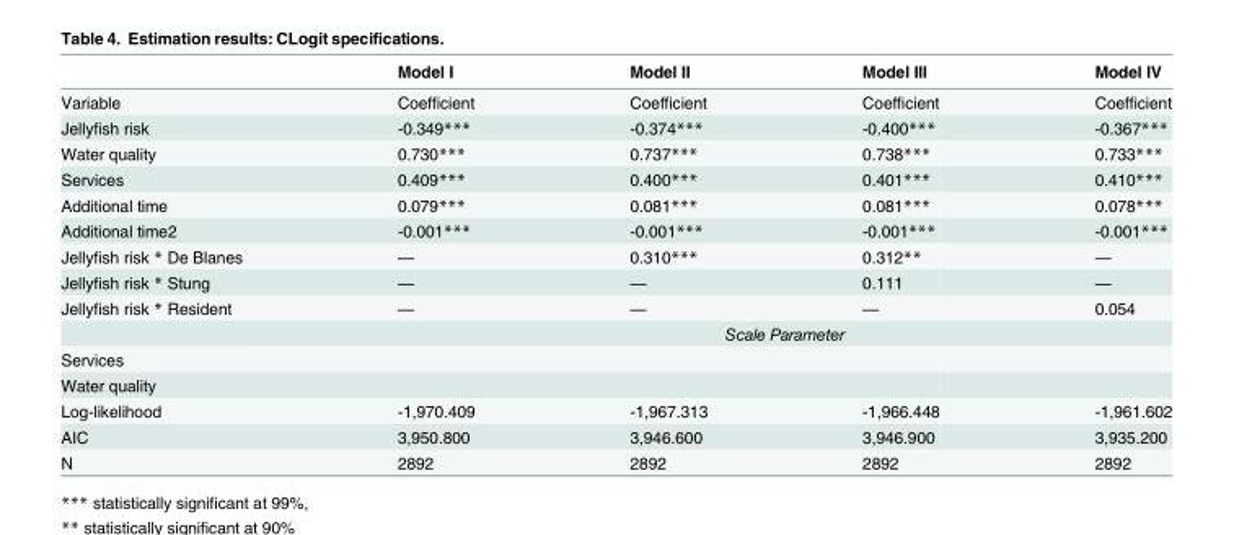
<table><thead><tr><td></td><td>Model I</td><td>Model II</td><td>Model III</td><td>Model IV</td></tr></thead><tbody><tr><td>Variable</td><td>Coefficient</td><td>Coefficient</td><td>Coefficient</td><td>Coefficient</td></tr><tr><td>Jellyfish risk</td><td>-0.349***</td><td>-0.374***</td><td>-0.400***</td><td>-0.367***</td></tr><tr><td>Water quality</td><td>0.730***</td><td>0.737***</td><td>0.738***</td><td>0.733***</td></tr><tr><td>Services</td><td>0.409***</td><td>0.400***</td><td>0.401***</td><td>0.410***</td></tr><tr><td>Additional time</td><td>0.079***</td><td>0.081***</td><td>0.081***</td><td>0.078***</td></tr><tr><td>Additional time2</td><td>-0.001***</td><td>-0.001***</td><td>-0.001***</td><td>-0.001***</td></tr><tr><td>Jellyfish risk * De Blanes</td><td>—</td><td>0.310***</td><td>0.312**</td><td>—</td></tr><tr><td>Jellyfish risk * Stung</td><td>—</td><td>—</td><td>0.111</td><td>—</td></tr><tr><td rowspan="2">Jellyfish risk * Resident</td><td>—</td><td>—</td><td>—</td><td>0.054</td></tr><tr><td colspan="4">Scale Parameter</td></tr><tr><td colspan="5">Services</td></tr><tr><td colspan="5">Water quality</td></tr><tr><td>Log-likelihood</td><td>-1,970.409</td><td>-1,967.313</td><td>-1,966.448</td><td>-1,961.602</td></tr><tr><td>AIC</td><td>3,950.800</td><td>3,946.600</td><td>3,946.900</td><td>3,935.200</td></tr><tr><td>N</td><td>2892</td><td>2892</td><td>2892</td><td>2892</td></tr></tbody></table>